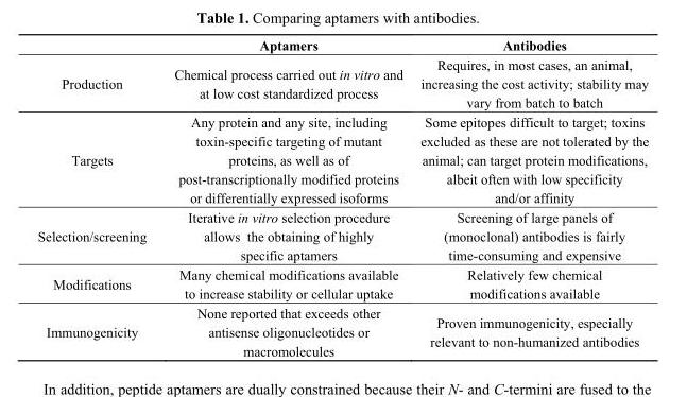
<table><thead><tr><td></td><td>Aptamers</td><td>Antibodies</td></tr></thead><tbody><tr><td>Production</td><td>Chemical process carried out in vitro and at low cost standardized process</td><td>Requires, in most cases, an animal, increasing the cost activity; stability may vary from batch to batch</td></tr><tr><td>Targets</td><td>Any protein and any site, including toxin-specific targeting of mutant proteins, as well as of post-transcriptionally modified proteins or differentially expressed isoforms</td><td>Some epitopes difficult to target; toxins excluded as these are not tolerated by the animal; can target protein modifications, albeit often with low specificity and/or affinity</td></tr><tr><td>Selection/screening</td><td>Iterative in vitro selection procedure allows the obtaining of highly specific aptamers</td><td>Screening of large panels of (monoclonal) antibodies is fairly time-consuming and expensive</td></tr><tr><td>Modifications</td><td>Many chemical modifications available to increase stability or cellular uptake</td><td>Relatively few chemical modifications available</td></tr><tr><td>Immunogenicity</td><td>None reported that exceeds other antisense oligonucleotides or macromolecules</td><td>Proven immunogenicity, especially relevant to non-humanized antibodies</td></tr></tbody></table>